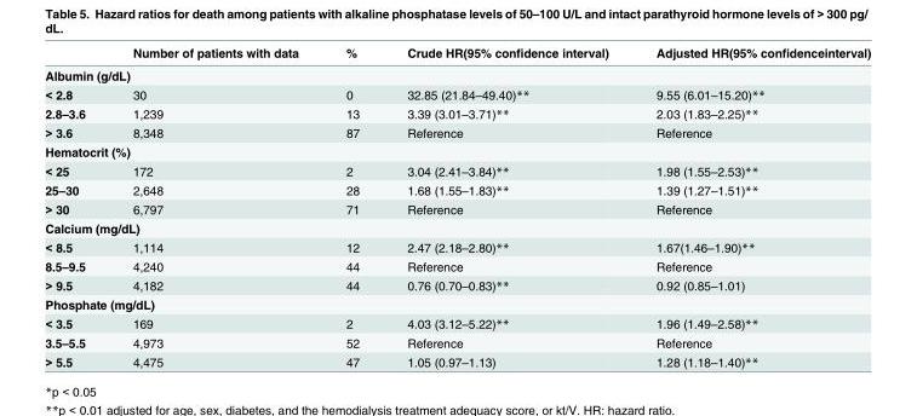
<table><thead><tr><td></td><td>Number of patients with data</td><td>%</td><td>Crude HR(95% confidence interval)</td><td>Adjusted HR(95% confidenceinterval)</td></tr></thead><tbody><tr><td colspan="5">Albumin (g/dL)</td></tr><tr><td>&lt; 2.8</td><td>30</td><td>0</td><td>32.85 (21.84–49.40)**</td><td>9.55 (6.01–15.20)**</td></tr><tr><td>2.8–3.6</td><td>1,239</td><td>13</td><td>3.39 (3.01–3.71)**</td><td>2.03 (1.83–2.25)**</td></tr><tr><td>&gt; 3.6</td><td>8,348</td><td>87</td><td>Reference</td><td>Reference</td></tr><tr><td colspan="5">Hematocrit (%)</td></tr><tr><td>&lt; 25</td><td>172</td><td>2</td><td>3.04 (2.41–3.84)**</td><td>1.98 (1.55–2.53)**</td></tr><tr><td>25–30</td><td>2,648</td><td>28</td><td>1.68 (1.55–1.83)**</td><td>1.39 (1.27–1.51)**</td></tr><tr><td>&gt; 30</td><td>6,797</td><td>71</td><td>Reference</td><td>Reference</td></tr><tr><td colspan="5">Calcium (mg/dL)</td></tr><tr><td>&lt; 8.5</td><td>1,114</td><td>12</td><td>2.47 (2.18–2.80)**</td><td>1.67(1.46–1.90)**</td></tr><tr><td>8.5–9.5</td><td>4,240</td><td>44</td><td>Reference</td><td>Reference</td></tr><tr><td>&gt; 9.5</td><td>4,182</td><td>44</td><td>0.76 (0.70–0.83)**</td><td>0.92 (0.85–1.01)</td></tr><tr><td colspan="5">Phosphate (mg/dL)</td></tr><tr><td>&lt; 3.5</td><td>169</td><td>2</td><td>4.03 (3.12–5.22)**</td><td>1.96 (1.49–2.58)**</td></tr><tr><td>3.5–5.5</td><td>4,973</td><td>52</td><td>Reference</td><td>Reference</td></tr><tr><td>&gt; 5.5</td><td>4,475</td><td>47</td><td>1.05 (0.97–1.13)</td><td>1.28 (1.18–1.40)**</td></tr></tbody></table>